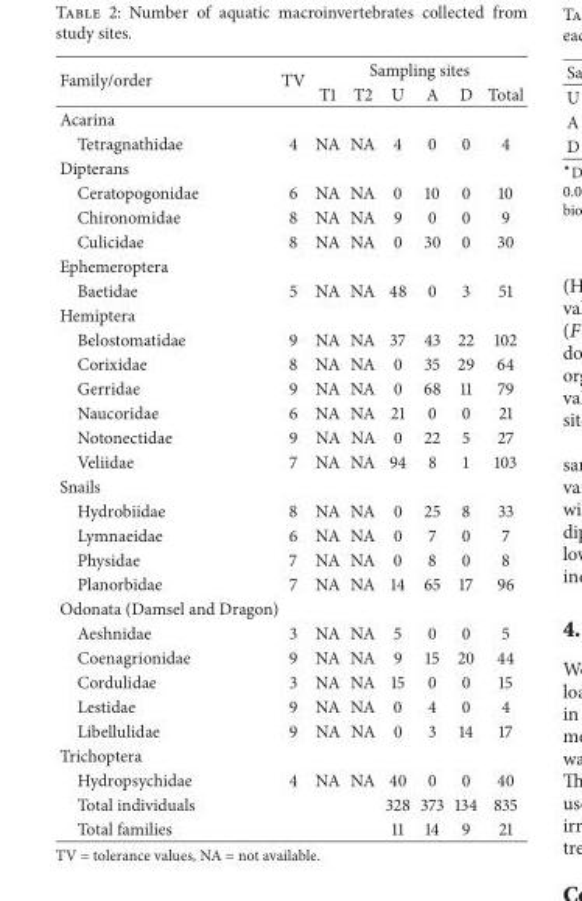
<table><thead><tr><td rowspan="2">Family/order</td><td rowspan="2">TV</td><td colspan="6">Sampling sites</td></tr><tr><td>T1</td><td>T2</td><td>U</td><td>A</td><td>D</td><td>Total</td></tr></thead><tbody><tr><td colspan="8">Acarina</td></tr><tr><td>Tetragnathidae</td><td>4</td><td>NA</td><td>NA</td><td>4</td><td>0</td><td>0</td><td>4</td></tr><tr><td colspan="8">Dipterans</td></tr><tr><td>Ceratopogonidae</td><td>6</td><td>NA</td><td>NA</td><td>0</td><td>10</td><td>0</td><td>10</td></tr><tr><td>Chironomidae</td><td>8</td><td>NA</td><td>NA</td><td>9</td><td>0</td><td>0</td><td>9</td></tr><tr><td>Culicidae</td><td>8</td><td>NA</td><td>NA</td><td>0</td><td>30</td><td>0</td><td>30</td></tr><tr><td colspan="8">Ephemeroptera</td></tr><tr><td>Baetidae</td><td>5</td><td>NA</td><td>NA</td><td>48</td><td>0</td><td>3</td><td>51</td></tr><tr><td colspan="8">Hemiptera</td></tr><tr><td>Belostomatidae</td><td>9</td><td>NA</td><td>NA</td><td>37</td><td>43</td><td>22</td><td>102</td></tr><tr><td>Corixidae</td><td>8</td><td>NA</td><td>NA</td><td>0</td><td>35</td><td>29</td><td>64</td></tr><tr><td>Gerridae</td><td>9</td><td>NA</td><td>NA</td><td>0</td><td>68</td><td>11</td><td>79</td></tr><tr><td>Naucoridae</td><td>6</td><td>NA</td><td>NA</td><td>21</td><td>0</td><td>0</td><td>21</td></tr><tr><td>Notonectidae</td><td>9</td><td>NA</td><td>NA</td><td>0</td><td>22</td><td>5</td><td>27</td></tr><tr><td>Veliidae</td><td>7</td><td>NA</td><td>NA</td><td>94</td><td>8</td><td>1</td><td>103</td></tr><tr><td colspan="8">Snails</td></tr><tr><td>Hydrobiidae</td><td>8</td><td>NA</td><td>NA</td><td>0</td><td>25</td><td>8</td><td>33</td></tr><tr><td>Lymnaeidae</td><td>6</td><td>NA</td><td>NA</td><td>0</td><td>7</td><td>0</td><td>7</td></tr><tr><td>Physidae</td><td>7</td><td>NA</td><td>NA</td><td>0</td><td>8</td><td>0</td><td>8</td></tr><tr><td>Planorbidae</td><td>7</td><td>NA</td><td>NA</td><td>14</td><td>65</td><td>17</td><td>96</td></tr><tr><td colspan="8">Odonata (Damsel and Dragon)</td></tr><tr><td>Aeshnidae</td><td>3</td><td>NA</td><td>NA</td><td>5</td><td>0</td><td>0</td><td>5</td></tr><tr><td>Coenagrionidae</td><td>9</td><td>NA</td><td>NA</td><td>9</td><td>15</td><td>20</td><td>44</td></tr><tr><td>Cordulidae</td><td>3</td><td>NA</td><td>NA</td><td>15</td><td>0</td><td>0</td><td>15</td></tr><tr><td>Lestidae</td><td>9</td><td>NA</td><td>NA</td><td>0</td><td>4</td><td>0</td><td>4</td></tr><tr><td>Libellulidae</td><td>9</td><td>NA</td><td>NA</td><td>0</td><td>3</td><td>14</td><td>17</td></tr><tr><td colspan="8">Trichoptera</td></tr><tr><td>Hydropsychidae</td><td>4</td><td>NA</td><td>NA</td><td>40</td><td>0</td><td>0</td><td>40</td></tr><tr><td>Total individuals</td><td></td><td></td><td></td><td>328</td><td>373</td><td>134</td><td>835</td></tr><tr><td>Total families</td><td></td><td></td><td></td><td>11</td><td>14</td><td>9</td><td>21</td></tr></tbody></table>